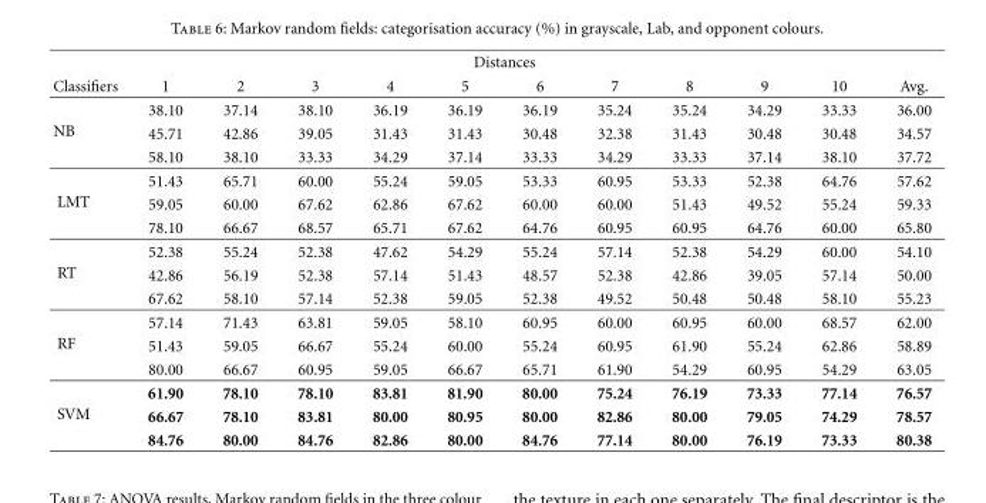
<table><thead><tr><td rowspan="2">Classifiers</td><td colspan="10">Distances</td><td rowspan="2">Avg.</td></tr><tr><td>1</td><td>2</td><td>3</td><td>4</td><td>5</td><td>6</td><td>7</td><td>8</td><td>9</td><td>10</td></tr></thead><tbody><tr><td rowspan="3">NB</td><td>38.10</td><td>37.14</td><td>38.10</td><td>36.19</td><td>36.19</td><td>36.19</td><td>35.24</td><td>35.24</td><td>34.29</td><td>33.33</td><td>36.00</td></tr><tr><td>45.71</td><td>42.86</td><td>39.05</td><td>31.43</td><td>31.43</td><td>30.48</td><td>32.38</td><td>31.43</td><td>30.48</td><td>30.48</td><td>34.57</td></tr><tr><td>58.10</td><td>38.10</td><td>33.33</td><td>34.29</td><td>37.14</td><td>33.33</td><td>34.29</td><td>33.33</td><td>37.14</td><td>38.10</td><td>37.72</td></tr><tr><td rowspan="3">LMT</td><td>51.43</td><td>65.71</td><td>60.00</td><td>55.24</td><td>59.05</td><td>53.33</td><td>60.95</td><td>53.33</td><td>52.38</td><td>64.76</td><td>57.62</td></tr><tr><td>59.05</td><td>60.00</td><td>67.62</td><td>62.86</td><td>67.62</td><td>60.00</td><td>60.00</td><td>51.43</td><td>49.52</td><td>55.24</td><td>59.33</td></tr><tr><td>78.10</td><td>66.67</td><td>68.57</td><td>65.71</td><td>67.62</td><td>64.76</td><td>60.95</td><td>60.95</td><td>64.76</td><td>60.00</td><td>65.80</td></tr><tr><td rowspan="3">RT</td><td>52.38</td><td>55.24</td><td>52.38</td><td>47.62</td><td>54.29</td><td>55.24</td><td>57.14</td><td>52.38</td><td>54.29</td><td>60.00</td><td>54.10</td></tr><tr><td>42.86</td><td>56.19</td><td>52.38</td><td>57.14</td><td>51.43</td><td>48.57</td><td>52.38</td><td>42.86</td><td>39.05</td><td>57.14</td><td>50.00</td></tr><tr><td>67.62</td><td>58.10</td><td>57.14</td><td>52.38</td><td>59.05</td><td>52.38</td><td>49.52</td><td>50.48</td><td>50.48</td><td>58.10</td><td>55.23</td></tr><tr><td rowspan="3">RF</td><td>57.14</td><td>71.43</td><td>63.81</td><td>59.05</td><td>58.10</td><td>60.95</td><td>60.00</td><td>60.95</td><td>60.00</td><td>68.57</td><td>62.00</td></tr><tr><td>51.43</td><td>59.05</td><td>66.67</td><td>55.24</td><td>60.00</td><td>55.24</td><td>60.95</td><td>61.90</td><td>55.24</td><td>62.86</td><td>58.89</td></tr><tr><td>80.00</td><td>66.67</td><td>60.95</td><td>59.05</td><td>66.67</td><td>65.71</td><td>61.90</td><td>54.29</td><td>60.95</td><td>54.29</td><td>63.05</td></tr><tr><td rowspan="3">SVM</td><td>61.90</td><td>78.10</td><td>78.10</td><td>83.81</td><td>81.90</td><td>80.00</td><td>75.24</td><td>76.19</td><td>73.33</td><td>77.14</td><td>76.57</td></tr><tr><td>66.67</td><td>78.10</td><td>83.81</td><td>80.00</td><td>80.95</td><td>80.00</td><td>82.86</td><td>80.00</td><td>79.05</td><td>74.29</td><td>78.57</td></tr><tr><td>84.76</td><td>80.00</td><td>84.76</td><td>82.86</td><td>80.00</td><td>84.76</td><td>77.14</td><td>80.00</td><td>76.19</td><td>73.33</td><td>80.38</td></tr></tbody></table>